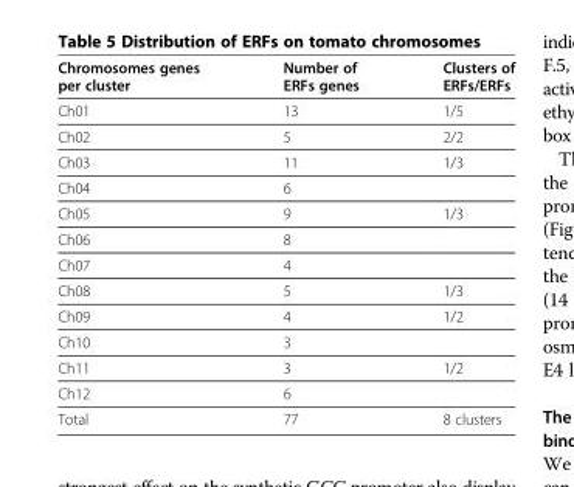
<table><thead><tr><td>Chromosomes genes per cluster</td><td>Number of ERFs genes</td><td>Clusters of ERFs/ERFs</td></tr></thead><tbody><tr><td>Ch01</td><td>13</td><td>1/5</td></tr><tr><td>Ch02</td><td>5</td><td>2/2</td></tr><tr><td>Ch03</td><td>11</td><td>1/3</td></tr><tr><td>Ch04</td><td>6</td><td></td></tr><tr><td>Ch05</td><td>9</td><td>1/3</td></tr><tr><td>Ch06</td><td>8</td><td></td></tr><tr><td>Ch07</td><td>4</td><td></td></tr><tr><td>Ch08</td><td>5</td><td>1/3</td></tr><tr><td>Ch09</td><td>4</td><td>1/2</td></tr><tr><td>Ch10</td><td>3</td><td></td></tr><tr><td>Ch11</td><td>3</td><td>1/2</td></tr><tr><td>Ch12</td><td>6</td><td></td></tr><tr><td>Total</td><td>77</td><td>8 clusters</td></tr></tbody></table>